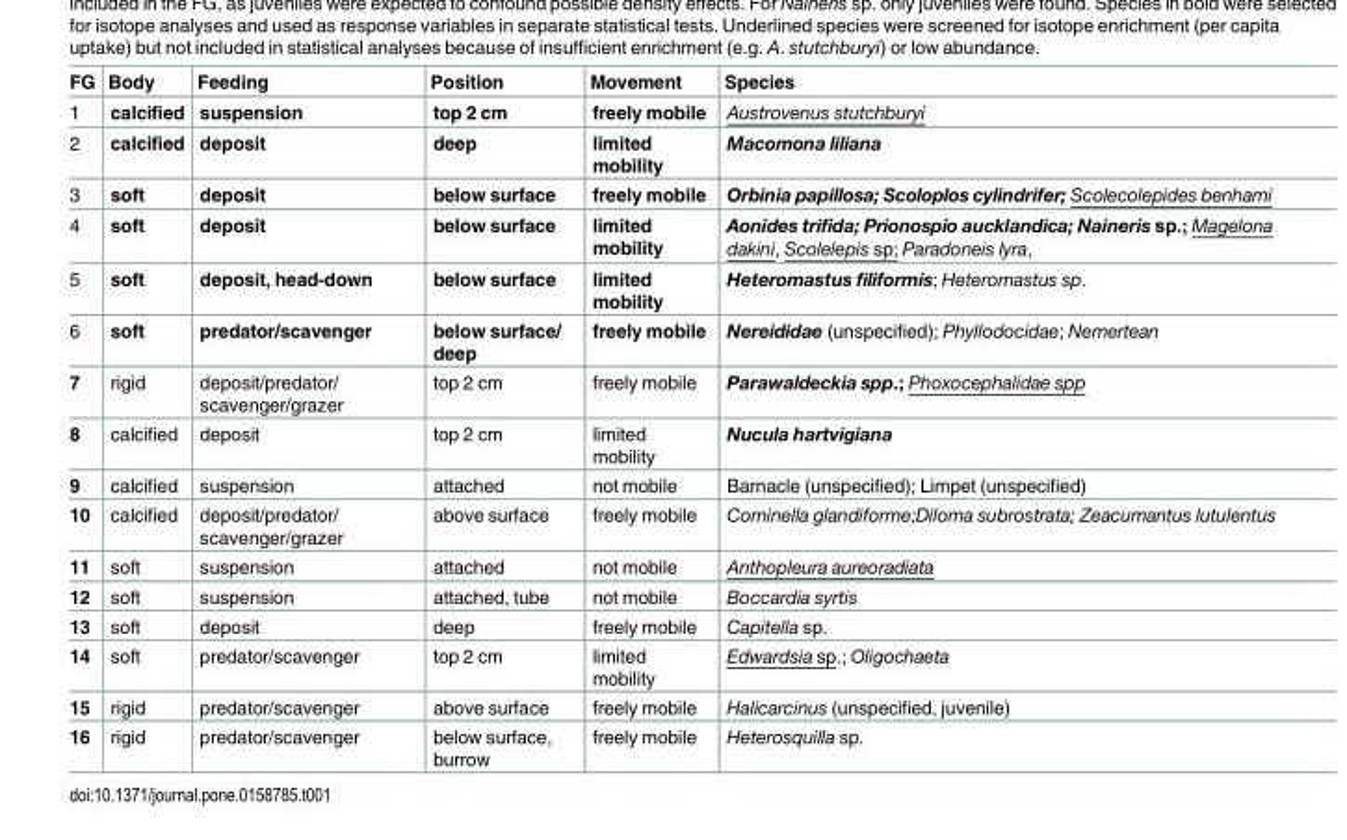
<table><thead><tr><td>FG</td><td>Body</td><td>Feeding</td><td>Position</td><td>Movement</td><td>Species</td></tr></thead><tbody><tr><td>1</td><td>calcified</td><td>suspension</td><td>top 2 cm</td><td>freely mobile</td><td>Austrovenus stutchburyi</td></tr><tr><td>2</td><td>calcified</td><td>deposit</td><td>deep</td><td>limited mobility</td><td>Macomona liliana</td></tr><tr><td>3</td><td>soft</td><td>deposit</td><td>below surface</td><td>freely mobile</td><td>Orbinia papillosa; Scoloplos cylindrifer; Scolecolepides benhami</td></tr><tr><td>4</td><td>soft</td><td>deposit</td><td>below surface</td><td>limited mobility</td><td>Aonides trifida; Prionospio aucklandica; Naineris sp.; Magelona dakini, Scolelepis sp; Paradoneis lyra,</td></tr><tr><td>5</td><td>soft</td><td>deposit, head-down</td><td>below surface</td><td>limited mobility</td><td>Heteromastus filiformis; Heteromastus sp.</td></tr><tr><td>6</td><td>soft</td><td>predator/scavenger</td><td>below surface/ deep</td><td>freely mobile</td><td>Nereididae (unspecified); Phyllodocidae; Nemertean</td></tr><tr><td>7</td><td>rigid</td><td>deposit/predator/ scavenger/grazer</td><td>top 2 cm</td><td>freely mobile</td><td>Parawaldeckia spp.; Phoxocephalidae spp</td></tr><tr><td>8</td><td>calcified</td><td>deposit</td><td>top 2 cm</td><td>limited mobility</td><td>Nucula hartvigiana</td></tr><tr><td>9</td><td>calcified</td><td>suspension</td><td>attached</td><td>not mobile</td><td>Barnacle (unspecified); Limpet (unspecified)</td></tr><tr><td>10</td><td>calcified</td><td>deposit/predator/ scavenger/grazer</td><td>above surface</td><td>freely mobile</td><td>Cominella glandiforme;Diloma subrostrata; Zeacumantus lutulentus</td></tr><tr><td>11</td><td>soft</td><td>suspension</td><td>attached</td><td>not mobile</td><td>Anthopleura aureoradiata</td></tr><tr><td>12</td><td>soft</td><td>suspension</td><td>attached, tube</td><td>not mobile</td><td>Boccardia syrtis</td></tr><tr><td>13</td><td>soft</td><td>deposit</td><td>deep</td><td>freely mobile</td><td>Capitella sp.</td></tr><tr><td>14</td><td>soft</td><td>predator/scavenger</td><td>top 2 cm</td><td>limited mobility</td><td>Edwardsia sp.; Oligochaeta</td></tr><tr><td>15</td><td>rigid</td><td>predator/scavenger</td><td>above surface</td><td>freely mobile</td><td>Halicarcinus (unspecified, juvenile)</td></tr><tr><td>16</td><td>rigid</td><td>predator/scavenger</td><td>below surface, burrow</td><td>freely mobile</td><td>Heterosquilla sp.</td></tr></tbody></table>